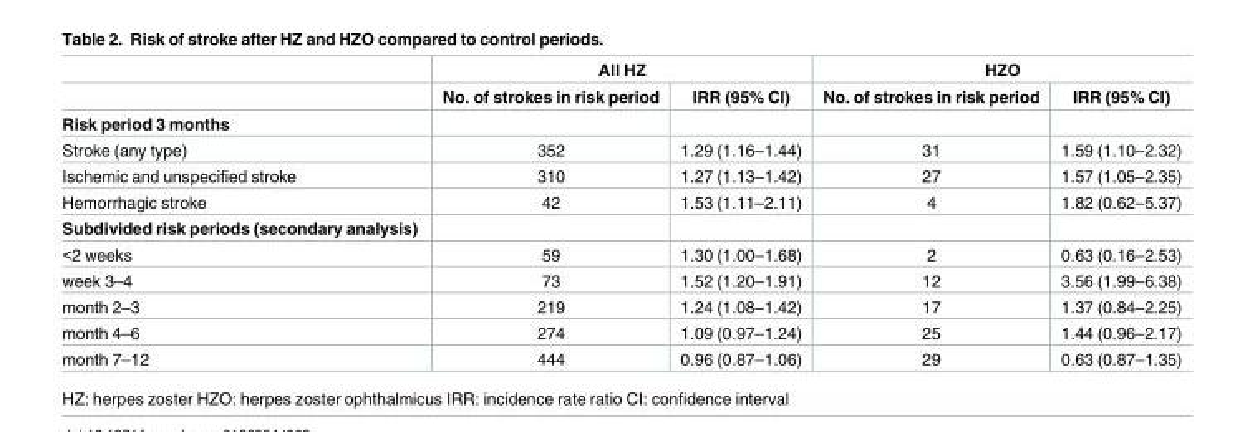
<table><thead><tr><td rowspan="2"></td><td colspan="2">All HZ</td><td colspan="2">HZO</td></tr><tr><td>No. of strokes in risk period</td><td>IRR (95% CI)</td><td>No. of strokes in risk period</td><td>IRR (95% CI)</td></tr></thead><tbody><tr><td colspan="5">Risk period 3 months</td></tr><tr><td>Stroke (any type)</td><td>352</td><td>1.29 (1.16–1.44)</td><td>31</td><td>1.59 (1.10–2.32)</td></tr><tr><td>Ischemic and unspecified stroke</td><td>310</td><td>1.27 (1.13–1.42)</td><td>27</td><td>1.57 (1.05–2.35)</td></tr><tr><td>Hemorrhagic stroke</td><td>42</td><td>1.53 (1.11–2.11)</td><td>4</td><td>1.82 (0.62–5.37)</td></tr><tr><td colspan="5">Subdivided risk periods (secondary analysis)</td></tr><tr><td>&lt;2 weeks</td><td>59</td><td>1.30 (1.00–1.68)</td><td>2</td><td>0.63 (0.16–2.53)</td></tr><tr><td>week 3–4</td><td>73</td><td>1.52 (1.20–1.91)</td><td>12</td><td>3.56 (1.99–6.38)</td></tr><tr><td>month 2–3</td><td>219</td><td>1.24 (1.08–1.42)</td><td>17</td><td>1.37 (0.84–2.25)</td></tr><tr><td>month 4–6</td><td>274</td><td>1.09 (0.97–1.24)</td><td>25</td><td>1.44 (0.96–2.17)</td></tr><tr><td>month 7–12</td><td>444</td><td>0.96 (0.87–1.06)</td><td>29</td><td>0.63 (0.87–1.35)</td></tr></tbody></table>